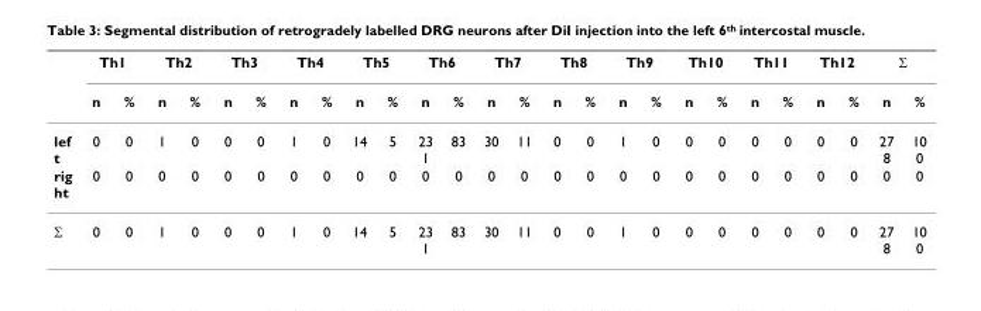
<table><thead><tr><td rowspan="2"></td><td colspan="2">Th1</td><td colspan="2">Th2</td><td colspan="2">Th3</td><td colspan="2">Th4</td><td colspan="2">Th5</td><td colspan="2">Th6</td><td colspan="2">Th7</td><td colspan="2">Th8</td><td colspan="2">Th9</td><td colspan="2">Th10</td><td colspan="2">Th11</td><td colspan="2">Th12</td><td colspan="2">Σ</td></tr><tr><td>n</td><td>%</td><td>n</td><td>%</td><td>n</td><td>%</td><td>n</td><td>%</td><td>n</td><td>%</td><td>n</td><td>%</td><td>n</td><td>%</td><td>n</td><td>%</td><td>n</td><td>%</td><td>n</td><td>%</td><td>n</td><td>%</td><td>n</td><td>%</td><td>n</td><td>%</td></tr></thead><tbody><tr><td>lef t</td><td>0</td><td>0</td><td>1</td><td>0</td><td>0</td><td>0</td><td>1</td><td>0</td><td>14</td><td>5</td><td>23 1</td><td>83</td><td>30</td><td>11</td><td>0</td><td>0</td><td>1</td><td>0</td><td>0</td><td>0</td><td>0</td><td>0</td><td>0</td><td>0</td><td>27 8</td><td>10 0</td></tr><tr><td>rig ht</td><td>0</td><td>0</td><td>0</td><td>0</td><td>0</td><td>0</td><td>0</td><td>0</td><td>0</td><td>0</td><td>0</td><td>0</td><td>0</td><td>0</td><td>0</td><td>0</td><td>0</td><td>0</td><td>0</td><td>0</td><td>0</td><td>0</td><td>0</td><td>0</td><td>0</td><td>0</td></tr><tr><td>Σ</td><td>0</td><td>0</td><td>1</td><td>0</td><td>0</td><td>0</td><td>1</td><td>0</td><td>14</td><td>5</td><td>23 1</td><td>83</td><td>30</td><td>11</td><td>0</td><td>0</td><td>1</td><td>0</td><td>0</td><td>0</td><td>0</td><td>0</td><td>0</td><td>0</td><td>27 8</td><td>10 0</td></tr></tbody></table>